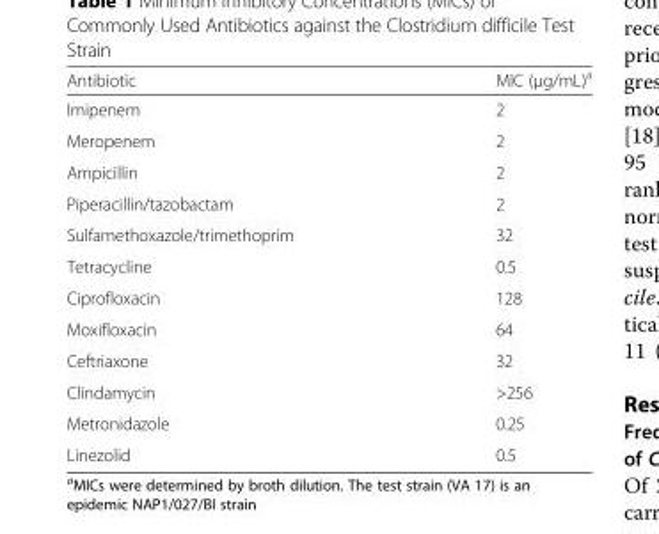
<table><thead><tr><td>Antibiotic</td><td>MIC (μg/mL)<sup>a</sup></td></tr></thead><tbody><tr><td>Imipenem</td><td>2</td></tr><tr><td>Meropenem</td><td>2</td></tr><tr><td>Ampicillin</td><td>2</td></tr><tr><td>Piperacillin/tazobactam</td><td>2</td></tr><tr><td>Sulfamethoxazole/trimethoprim</td><td>32</td></tr><tr><td>Tetracycline</td><td>0.5</td></tr><tr><td>Ciprofloxacin</td><td>128</td></tr><tr><td>Moxifloxacin</td><td>64</td></tr><tr><td>Ceftriaxone</td><td>32</td></tr><tr><td>Clindamycin</td><td>&gt;256</td></tr><tr><td>Metronidazole</td><td>0.25</td></tr><tr><td>Linezolid</td><td>0.5</td></tr></tbody></table>